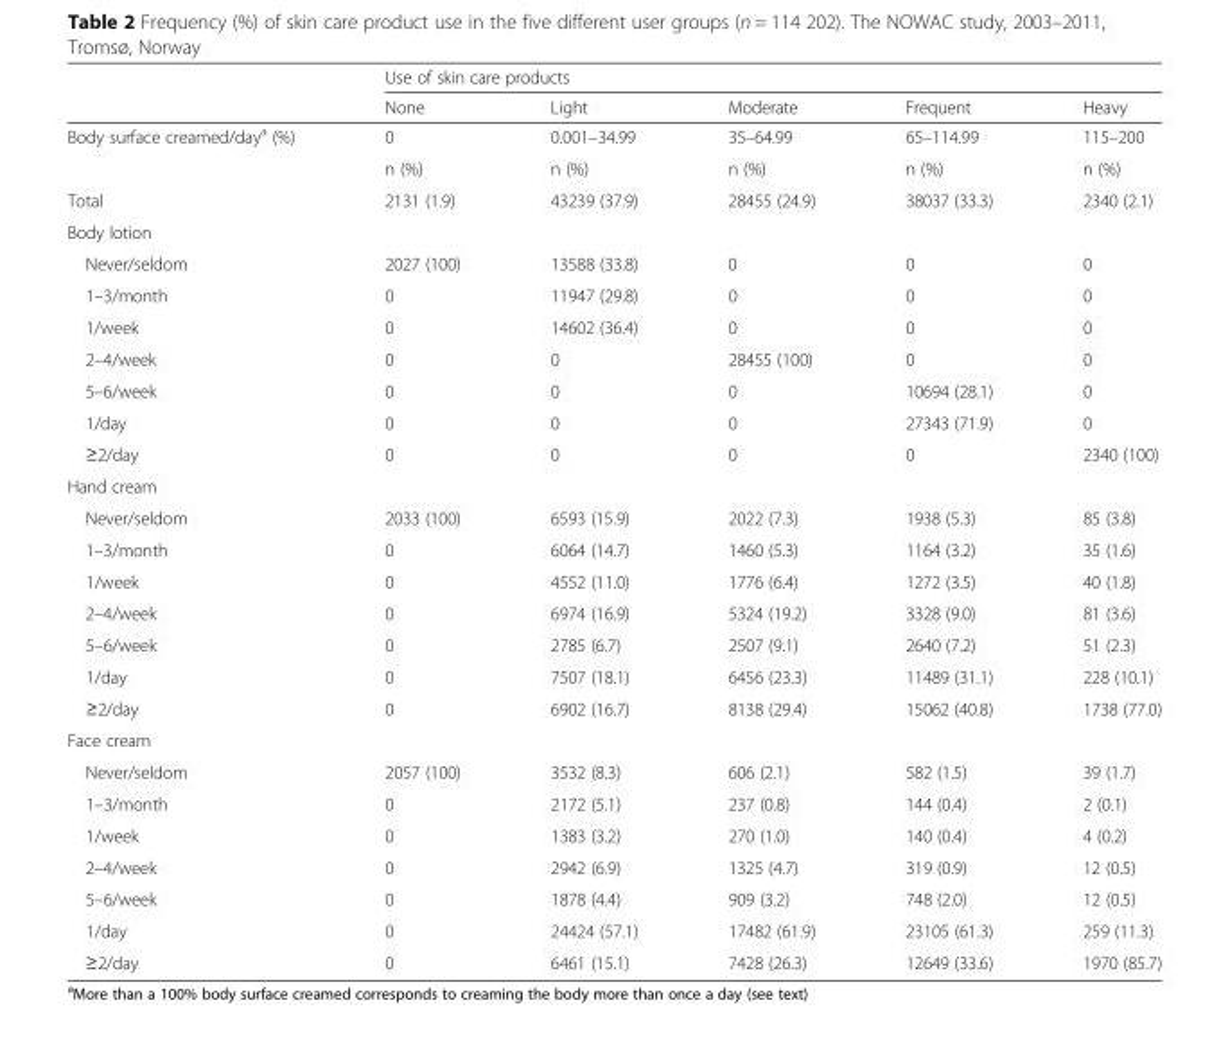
<table><thead><tr><td rowspan="2"></td><td colspan="5">Use of skin care products</td></tr><tr><td>None</td><td>Light</td><td>Moderate</td><td>Frequent</td><td>Heavy</td></tr></thead><tbody><tr><td rowspan="2">Body surface creamed/day<sup>a</sup> (%)</td><td>0</td><td>0.001–34.99</td><td>35–64.99</td><td>65–114.99</td><td>115–200</td></tr><tr><td>n (%)</td><td>n (%)</td><td>n (%)</td><td>n (%)</td><td>n (%)</td></tr><tr><td>Total</td><td>2131 (1.9)</td><td>43239 (37.9)</td><td>28455 (24.9)</td><td>38037 (33.3)</td><td>2340 (2.1)</td></tr><tr><td colspan="6">Body lotion</td></tr><tr><td>Never/seldom</td><td>2027 (100)</td><td>13588 (33.8)</td><td>0</td><td>0</td><td>0</td></tr><tr><td>1–3/month</td><td>0</td><td>11947 (29.8)</td><td>0</td><td>0</td><td>0</td></tr><tr><td>1/week</td><td>0</td><td>14602 (36.4)</td><td>0</td><td>0</td><td>0</td></tr><tr><td>2–4/week</td><td>0</td><td>0</td><td>28455 (100)</td><td>0</td><td>0</td></tr><tr><td>5–6/week</td><td>0</td><td>0</td><td>0</td><td>10694 (28.1)</td><td>0</td></tr><tr><td>1/day</td><td>0</td><td>0</td><td>0</td><td>27343 (71.9)</td><td>0</td></tr><tr><td>≥2/day</td><td>0</td><td>0</td><td>0</td><td>0</td><td>2340 (100)</td></tr><tr><td colspan="6">Hand cream</td></tr><tr><td>Never/seldom</td><td>2033 (100)</td><td>6593 (15.9)</td><td>2022 (7.3)</td><td>1938 (5.3)</td><td>85 (3.8)</td></tr><tr><td>1–3/month</td><td>0</td><td>6064 (14.7)</td><td>1460 (5.3)</td><td>1164 (3.2)</td><td>35 (1.6)</td></tr><tr><td>1/week</td><td>0</td><td>4552 (11.0)</td><td>1776 (6.4)</td><td>1272 (3.5)</td><td>40 (1.8)</td></tr><tr><td>2–4/week</td><td>0</td><td>6974 (16.9)</td><td>5324 (19.2)</td><td>3328 (9.0)</td><td>81 (3.6)</td></tr><tr><td>5–6/week</td><td>0</td><td>2785 (6.7)</td><td>2507 (9.1)</td><td>2640 (7.2)</td><td>51 (2.3)</td></tr><tr><td>1/day</td><td>0</td><td>7507 (18.1)</td><td>6456 (23.3)</td><td>11489 (31.1)</td><td>228 (10.1)</td></tr><tr><td>≥2/day</td><td>0</td><td>6902 (16.7)</td><td>8138 (29.4)</td><td>15062 (40.8)</td><td>1738 (77.0)</td></tr><tr><td colspan="6">Face cream</td></tr><tr><td>Never/seldom</td><td>2057 (100)</td><td>3532 (8.3)</td><td>606 (2.1)</td><td>582 (1.5)</td><td>39 (1.7)</td></tr><tr><td>1–3/month</td><td>0</td><td>2172 (5.1)</td><td>237 (0.8)</td><td>144 (0.4)</td><td>2 (0.1)</td></tr><tr><td>1/week</td><td>0</td><td>1383 (3.2)</td><td>270 (1.0)</td><td>140 (0.4)</td><td>4 (0.2)</td></tr><tr><td>2–4/week</td><td>0</td><td>2942 (6.9)</td><td>1325 (4.7)</td><td>319 (0.9)</td><td>12 (0.5)</td></tr><tr><td>5–6/week</td><td>0</td><td>1878 (4.4)</td><td>909 (3.2)</td><td>748 (2.0)</td><td>12 (0.5)</td></tr><tr><td>1/day</td><td>0</td><td>24424 (57.1)</td><td>17482 (61.9)</td><td>23105 (61.3)</td><td>259 (11.3)</td></tr><tr><td>≥2/day</td><td>0</td><td>6461 (15.1)</td><td>7428 (26.3)</td><td>12649 (33.6)</td><td>1970 (85.7)</td></tr></tbody></table>